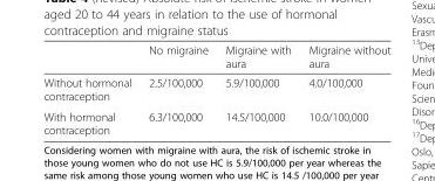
<table><thead><tr><td></td><td>No migraine</td><td>Migraine with aura</td><td>Migraine without aura</td></tr></thead><tbody><tr><td>Without hormonal contraception</td><td>2.5/100,000</td><td>5.9/100,000</td><td>4.0/100,000</td></tr><tr><td>With hormonal contraception</td><td>6.3/100,000</td><td>14.5/100,000</td><td>10.0/100,000</td></tr></tbody></table>